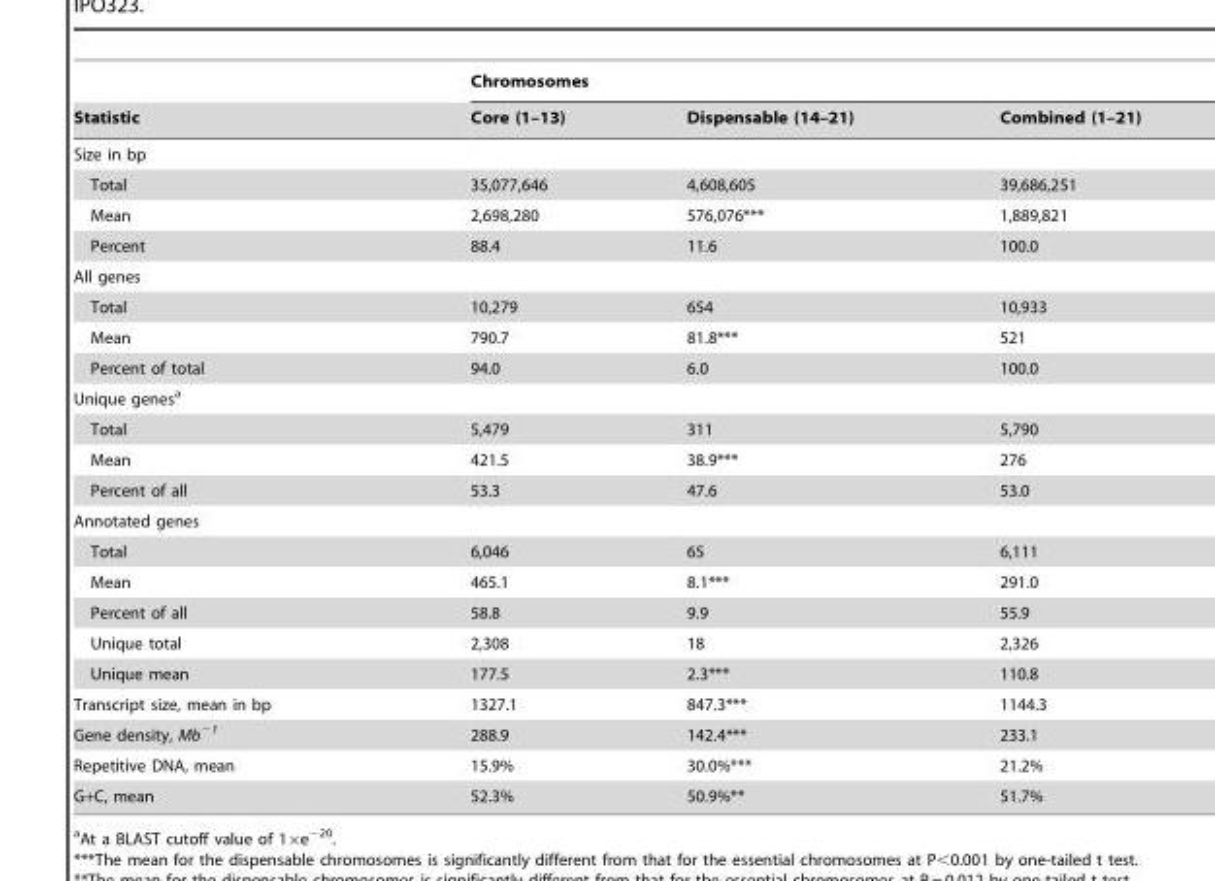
<table><thead><tr><td rowspan="2">Statistic</td><td colspan="3">Chromosomes</td></tr><tr><td>Core (1–13)</td><td>Dispensable (14–21)</td><td>Combined (1–21)</td></tr></thead><tbody><tr><td colspan="4">Size in bp</td></tr><tr><td>Total</td><td>35,077,646</td><td>4,608,605</td><td>39,686,251</td></tr><tr><td>Mean</td><td>2,698,280</td><td>576,076***</td><td>1,889,821</td></tr><tr><td>Percent</td><td>88.4</td><td>11.6</td><td>100.0</td></tr><tr><td colspan="4">All genes</td></tr><tr><td>Total</td><td>10,279</td><td>654</td><td>10,933</td></tr><tr><td>Mean</td><td>790.7</td><td>81.8***</td><td>521</td></tr><tr><td>Percent of total</td><td>94.0</td><td>6.0</td><td>100.0</td></tr><tr><td colspan="4">Unique genes<sup>a</sup></td></tr><tr><td>Total</td><td>5,479</td><td>311</td><td>5,790</td></tr><tr><td>Mean</td><td>421.5</td><td>38.9***</td><td>276</td></tr><tr><td>Percent of all</td><td>53.3</td><td>47.6</td><td>53.0</td></tr><tr><td colspan="4">Annotated genes</td></tr><tr><td>Total</td><td>6,046</td><td>65</td><td>6,111</td></tr><tr><td>Mean</td><td>465.1</td><td>8.1***</td><td>291.0</td></tr><tr><td>Percent of all</td><td>58.8</td><td>9.9</td><td>55.9</td></tr><tr><td>Unique total</td><td>2,308</td><td>18</td><td>2,326</td></tr><tr><td>Unique mean</td><td>177.5</td><td>2.3***</td><td>110.8</td></tr><tr><td>Transcript size, mean in bp</td><td>1327.1</td><td>847.3***</td><td>1144.3</td></tr><tr><td>Gene density, Mb<sup>−1</sup></td><td>288.9</td><td>142.4***</td><td>233.1</td></tr><tr><td>Repetitive DNA, mean</td><td>15.9%</td><td>30.0%***</td><td>21.2%</td></tr><tr><td>G+C, mean</td><td>52.3%</td><td>50.9%**</td><td>51.7%</td></tr></tbody></table>